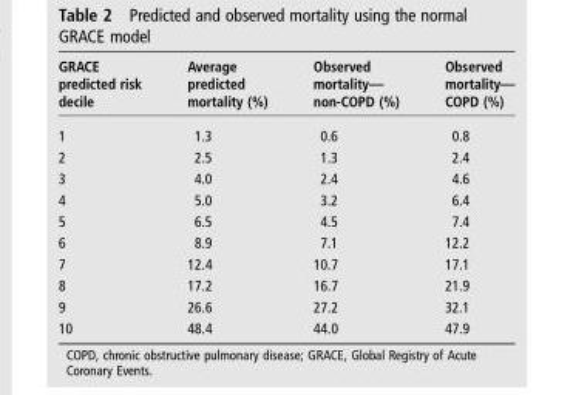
<table><thead><tr><td>GRACE predicted risk decile</td><td>Average predicted mortality (%)</td><td>Observed mortality— non-COPD (%)</td><td>Observed mortality— COPD (%)</td></tr></thead><tbody><tr><td>1</td><td>1.3</td><td>0.6</td><td>0.8</td></tr><tr><td>2</td><td>2.5</td><td>1.3</td><td>2.4</td></tr><tr><td>3</td><td>4.0</td><td>2.4</td><td>4.6</td></tr><tr><td>4</td><td>5.0</td><td>3.2</td><td>6.4</td></tr><tr><td>5</td><td>6.5</td><td>4.5</td><td>7.4</td></tr><tr><td>6</td><td>8.9</td><td>7.1</td><td>12.2</td></tr><tr><td>7</td><td>12.4</td><td>10.7</td><td>17.1</td></tr><tr><td>8</td><td>17.2</td><td>16.7</td><td>21.9</td></tr><tr><td>9</td><td>26.6</td><td>27.2</td><td>32.1</td></tr><tr><td>10</td><td>48.4</td><td>44.0</td><td>47.9</td></tr></tbody></table>